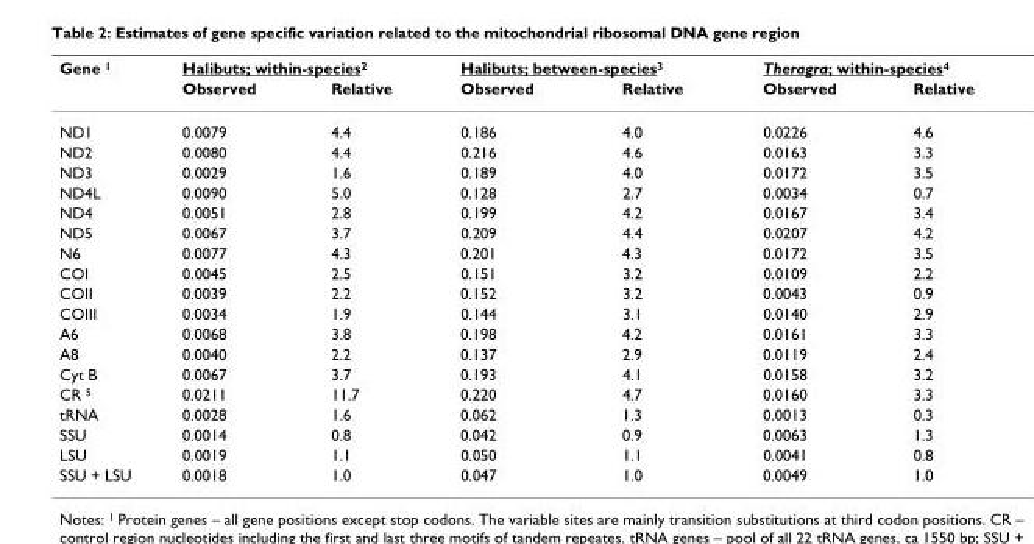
<table><thead><tr><td rowspan="2">Gene <sup>1</sup></td><td colspan="2">Halibuts; within-species<sup>2</sup></td><td colspan="2">Halibuts; between-species<sup>3</sup></td><td colspan="2">Theragra; within-species<sup>4</sup></td></tr><tr><td>Observed</td><td>Relative</td><td>Observed</td><td>Relative</td><td>Observed</td><td>Relative</td></tr></thead><tbody><tr><td>ND1</td><td>0.0079</td><td>4.4</td><td>0.186</td><td>4.0</td><td>0.0226</td><td>4.6</td></tr><tr><td>ND2</td><td>0.0080</td><td>4.4</td><td>0.216</td><td>4.6</td><td>0.0163</td><td>3.3</td></tr><tr><td>ND3</td><td>0.0029</td><td>1.6</td><td>0.189</td><td>4.0</td><td>0.0172</td><td>3.5</td></tr><tr><td>ND4L</td><td>0.0090</td><td>5.0</td><td>0.128</td><td>2.7</td><td>0.0034</td><td>0.7</td></tr><tr><td>ND4</td><td>0.0051</td><td>2.8</td><td>0.199</td><td>4.2</td><td>0.0167</td><td>3.4</td></tr><tr><td>ND5</td><td>0.0067</td><td>3.7</td><td>0.209</td><td>4.4</td><td>0.0207</td><td>4.2</td></tr><tr><td>N6</td><td>0.0077</td><td>4.3</td><td>0.201</td><td>4.3</td><td>0.0172</td><td>3.5</td></tr><tr><td>COI</td><td>0.0045</td><td>2.5</td><td>0.151</td><td>3.2</td><td>0.0109</td><td>2.2</td></tr><tr><td>COII</td><td>0.0039</td><td>2.2</td><td>0.152</td><td>3.2</td><td>0.0043</td><td>0.9</td></tr><tr><td>COIII</td><td>0.0034</td><td>1.9</td><td>0.144</td><td>3.1</td><td>0.0140</td><td>2.9</td></tr><tr><td>A6</td><td>0.0068</td><td>3.8</td><td>0.198</td><td>4.2</td><td>0.0161</td><td>3.3</td></tr><tr><td>A8</td><td>0.0040</td><td>2.2</td><td>0.137</td><td>2.9</td><td>0.0119</td><td>2.4</td></tr><tr><td>Cyt B</td><td>0.0067</td><td>3.7</td><td>0.193</td><td>4.1</td><td>0.0158</td><td>3.2</td></tr><tr><td>CR <sup>5</sup></td><td>0.0211</td><td>11.7</td><td>0.220</td><td>4.7</td><td>0.0160</td><td>3.3</td></tr><tr><td>tRNA</td><td>0.0028</td><td>1.6</td><td>0.062</td><td>1.3</td><td>0.0013</td><td>0.3</td></tr><tr><td>SSU</td><td>0.0014</td><td>0.8</td><td>0.042</td><td>0.9</td><td>0.0063</td><td>1.3</td></tr><tr><td>LSU</td><td>0.0019</td><td>1.1</td><td>0.050</td><td>1.1</td><td>0.0041</td><td>0.8</td></tr><tr><td>SSU + LSU</td><td>0.0018</td><td>1.0</td><td>0.047</td><td>1.0</td><td>0.0049</td><td>1.0</td></tr></tbody></table>